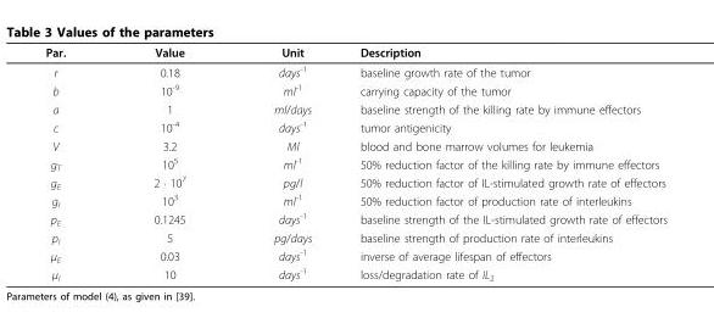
<table><thead><tr><td>Par.</td><td>Value</td><td>Unit</td><td>Description</td></tr></thead><tbody><tr><td>r</td><td>0.18</td><td>days<sup>-1</sup></td><td>baseline growth rate of the tumor</td></tr><tr><td>b</td><td>10<sup>-9</sup></td><td>ml<sup>-1</sup></td><td>carrying capacity of the tumor</td></tr><tr><td>a</td><td>1</td><td>ml/days</td><td>baseline strength of the killing rate by immune effectors</td></tr><tr><td>c</td><td>10<sup>-4</sup></td><td>days<sup>-1</sup></td><td>tumor antigenicity</td></tr><tr><td>V</td><td>3.2</td><td>Ml</td><td>blood and bone marrow volumes for leukemia</td></tr><tr><td>g<sub>T</sub></td><td>10<sup>5</sup></td><td>ml<sup>-1</sup></td><td>50% reduction factor of the killing rate by immune effectors</td></tr><tr><td>g<sub>E</sub></td><td>2 · 10<sup>7</sup></td><td>pg/l</td><td>50% reduction factor of IL-stimulated growth rate of effectors</td></tr><tr><td>g<sub>I</sub></td><td>10<sup>3</sup></td><td>ml<sup>-1</sup></td><td>50% reduction factor of production rate of interleukins</td></tr><tr><td>p<sub>E</sub></td><td>0.1245</td><td>days<sup>-1</sup></td><td>baseline strength of the IL-stimulated growth rate of effectors</td></tr><tr><td>p<sub>I</sub></td><td>5</td><td>pg/days</td><td>baseline strength of production rate of interleukins</td></tr><tr><td>μ<sub>E</sub></td><td>0.03</td><td>days<sup>-1</sup></td><td>inverse of average lifespan of effectors</td></tr><tr><td>μ<sub>I</sub></td><td>10</td><td>days<sup>-1</sup></td><td>loss/degradation rate of IL<sub>2</sub></td></tr></tbody></table>